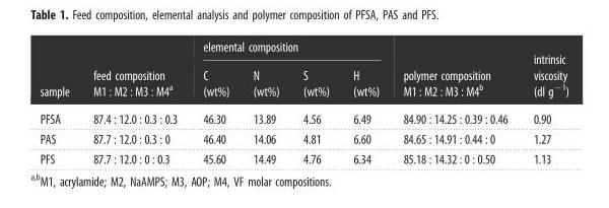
<table><thead><tr><td rowspan="2">sample</td><td rowspan="2">feed composition M1 : M2 : M3 : M4<sup>a</sup></td><td colspan="4">elemental composition</td><td rowspan="2">polymer composition M1 : M2 : M3 : M4<sup>b</sup></td><td rowspan="2">intrinsic viscosity (dl g<sup>−1</sup>)</td></tr><tr><td>C (wt%)</td><td>N (wt%)</td><td>S (wt%)</td><td>H (wt%)</td></tr></thead><tbody><tr><td>PFSA</td><td>87.4 : 12.0 : 0.3 : 0.3</td><td>46.30</td><td>13.89</td><td>4.56</td><td>6.49</td><td>84.90 : 14.25 : 0.39 : 0.46</td><td>0.90</td></tr><tr><td>PAS</td><td>87.7 : 12.0 : 0.3 : 0</td><td>46.40</td><td>14.06</td><td>4.81</td><td>6.60</td><td>84.65 : 14.91 : 0.44 : 0</td><td>1.27</td></tr><tr><td>PFS</td><td>87.7 : 12.0 : 0 : 0.3</td><td>45.60</td><td>14.49</td><td>4.76</td><td>6.34</td><td>85.18 : 14.32 : 0 : 0.50</td><td>1.13</td></tr></tbody></table>